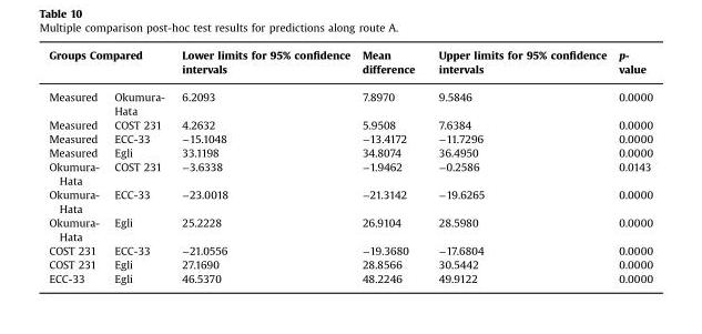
<table><thead><tr><td colspan="2">Groups Compared</td><td rowspan="2">Lower limits for 95% confidence intervals 6.2093</td><td rowspan="2">Mean difference 7.8970</td><td rowspan="2">Upper limits for 95% confidence intervals 9.5846</td><td rowspan="2">p- value 0.0000</td></tr><tr><td>Measured</td><td>Okumura- Hata</td></tr></thead><tbody><tr><td>Measured</td><td>COST 231</td><td>4.2632</td><td>5.9508</td><td>7.6384</td><td>0.0000</td></tr><tr><td>Measured</td><td>ECC-33</td><td>−15.1048</td><td>−13.4172</td><td>−11.7296</td><td>0.0000</td></tr><tr><td>Measured</td><td>Egli</td><td>33.1198</td><td>34.8074</td><td>36.4950</td><td>0.0000</td></tr><tr><td>Okumura- Hata</td><td>COST 231</td><td>−3.6338</td><td>−1.9462</td><td>−0.2586</td><td>0.0143</td></tr><tr><td>Okumura- Hata</td><td>ECC-33</td><td>−23.0018</td><td>−21.3142</td><td>−19.6265</td><td>0.0000</td></tr><tr><td>Okumura- Hata</td><td>Egli</td><td>25.2228</td><td>26.9104</td><td>28.5980</td><td>0.0000</td></tr><tr><td>COST 231</td><td>ECC-33</td><td>−21.0556</td><td>−19.3680</td><td>−17.6804</td><td>0.0000</td></tr><tr><td>COST 231</td><td>Egli</td><td>27.1690</td><td>28.8566</td><td>30.5442</td><td>0.0000</td></tr><tr><td>ECC-33</td><td>Egli</td><td>46.5370</td><td>48.2246</td><td>49.9122</td><td>0.0000</td></tr></tbody></table>